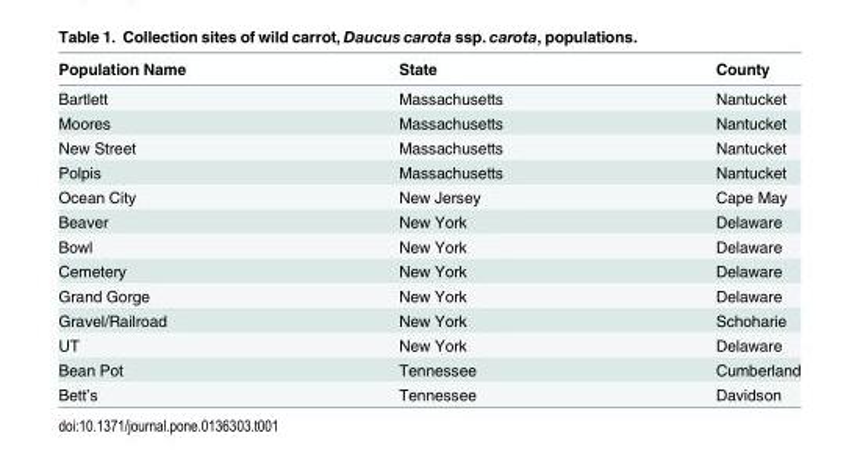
<table><thead><tr><td>Population Name</td><td>State</td><td>County</td></tr></thead><tbody><tr><td>Bartlett</td><td>Massachusetts</td><td>Nantucket</td></tr><tr><td>Moores</td><td>Massachusetts</td><td>Nantucket</td></tr><tr><td>New Street</td><td>Massachusetts</td><td>Nantucket</td></tr><tr><td>Polpis</td><td>Massachusetts</td><td>Nantucket</td></tr><tr><td>Ocean City</td><td>New Jersey</td><td>Cape May</td></tr><tr><td>Beaver</td><td>New York</td><td>Delaware</td></tr><tr><td>Bowl</td><td>New York</td><td>Delaware</td></tr><tr><td>Cemetery</td><td>New York</td><td>Delaware</td></tr><tr><td>Grand Gorge</td><td>New York</td><td>Delaware</td></tr><tr><td>Gravel/Railroad</td><td>New York</td><td>Schoharie</td></tr><tr><td>UT</td><td>New York</td><td>Delaware</td></tr><tr><td>Bean Pot</td><td>Tennessee</td><td>Cumberland</td></tr><tr><td>Bett’s</td><td>Tennessee</td><td>Davidson</td></tr></tbody></table>